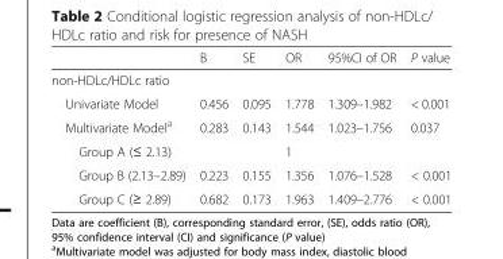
<table><thead><tr><td></td><td>B</td><td>SE</td><td>OR</td><td>95%CI of OR</td><td>P value</td></tr></thead><tbody><tr><td colspan="6">non-HDLc/HDLc ratio</td></tr><tr><td>Univariate Model</td><td>0.456</td><td>0.095</td><td>1.778</td><td>1.309–1.982</td><td>&lt; 0.001</td></tr><tr><td>Multivariate Model<sup>a</sup></td><td>0.283</td><td>0.143</td><td>1.544</td><td>1.023–1.756</td><td>0.037</td></tr><tr><td>Group A (≤ 2.13)</td><td></td><td></td><td>1</td><td></td><td></td></tr><tr><td>Group B (2.13–2.89)</td><td>0.223</td><td>0.155</td><td>1.356</td><td>1.076–1.528</td><td>&lt; 0.001</td></tr><tr><td>Group C (≥ 2.89)</td><td>0.682</td><td>0.173</td><td>1.963</td><td>1.409–2.776</td><td>&lt; 0.001</td></tr></tbody></table>